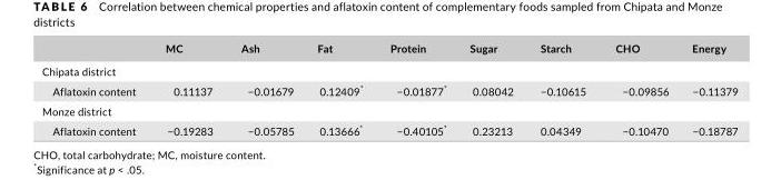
<table><thead><tr><td></td><td>MC</td><td>Ash</td><td>Fat</td><td>Protein</td><td>Sugar</td><td>Starch</td><td>CHO</td><td>Energy</td></tr></thead><tbody><tr><td colspan="9">Chipata district</td></tr><tr><td>Aflatoxin content</td><td>0.11137</td><td>−0.01679</td><td>0.12409*</td><td>−0.01877*</td><td>0.08042</td><td>−0.10615</td><td>−0.09856</td><td>−0.11379</td></tr><tr><td colspan="9">Monze district</td></tr><tr><td>Aflatoxin content</td><td>−0.19283</td><td>−0.05785</td><td>0.13666*</td><td>−0.40105*</td><td>0.23213</td><td>0.04349</td><td>−0.10470</td><td>−0.18787</td></tr></tbody></table>